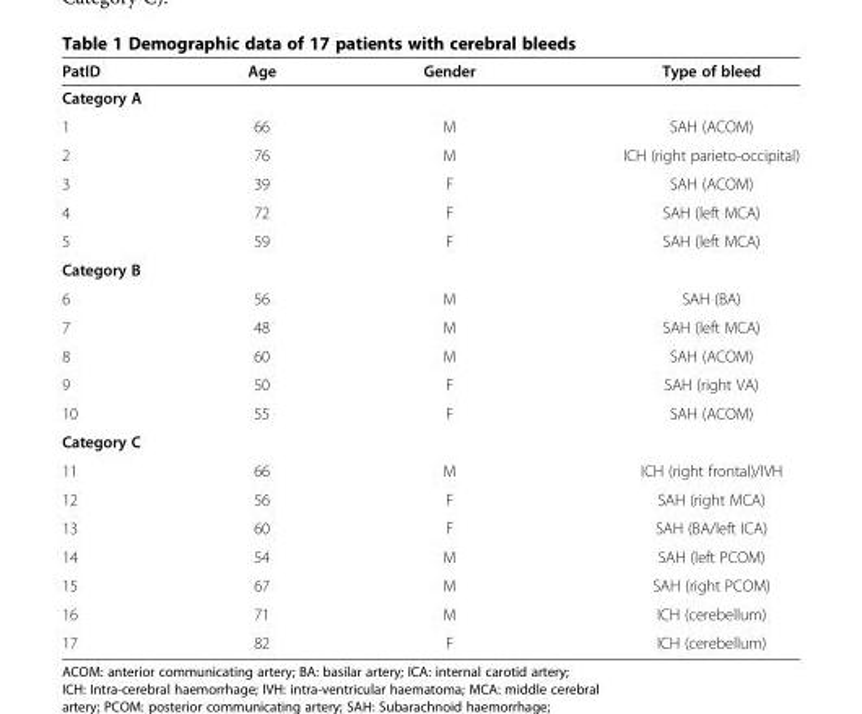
<table><thead><tr><td>PatID</td><td>Age</td><td>Gender</td><td>Type of bleed</td></tr></thead><tbody><tr><td colspan="4">Category A</td></tr><tr><td>1</td><td>66</td><td>M</td><td>SAH (ACOM)</td></tr><tr><td>2</td><td>76</td><td>M</td><td>ICH (right parieto-occipital)</td></tr><tr><td>3</td><td>39</td><td>F</td><td>SAH (ACOM)</td></tr><tr><td>4</td><td>72</td><td>F</td><td>SAH (left MCA)</td></tr><tr><td>5</td><td>59</td><td>F</td><td>SAH (left MCA)</td></tr><tr><td colspan="4">Category B</td></tr><tr><td>6</td><td>56</td><td>M</td><td>SAH (BA)</td></tr><tr><td>7</td><td>48</td><td>M</td><td>SAH (left MCA)</td></tr><tr><td>8</td><td>60</td><td>M</td><td>SAH (ACOM)</td></tr><tr><td>9</td><td>50</td><td>F</td><td>SAH (right VA)</td></tr><tr><td>10</td><td>55</td><td>F</td><td>SAH (ACOM)</td></tr><tr><td colspan="4">Category C</td></tr><tr><td>11</td><td>66</td><td>M</td><td>ICH (right frontal)/IVH</td></tr><tr><td>12</td><td>56</td><td>F</td><td>SAH (right MCA)</td></tr><tr><td>13</td><td>60</td><td>F</td><td>SAH (BA/left ICA)</td></tr><tr><td>14</td><td>54</td><td>M</td><td>SAH (left PCOM)</td></tr><tr><td>15</td><td>67</td><td>M</td><td>SAH (right PCOM)</td></tr><tr><td>16</td><td>71</td><td>M</td><td>ICH (cerebellum)</td></tr><tr><td>17</td><td>82</td><td>F</td><td>ICH (cerebellum)</td></tr></tbody></table>